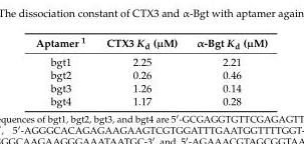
<table><thead><tr><td>Aptamer <sup>1</sup></td><td>CTX3 K<sub>d</sub> (µM)</td><td>α-Bgt K<sub>d</sub> (µM)</td></tr></thead><tbody><tr><td>bgt1</td><td>2.25</td><td>2.21</td></tr><tr><td>bgt2</td><td>0.26</td><td>0.46</td></tr><tr><td>bgt3</td><td>1.26</td><td>0.14</td></tr><tr><td>bgt4</td><td>1.17</td><td>0.28</td></tr></tbody></table>